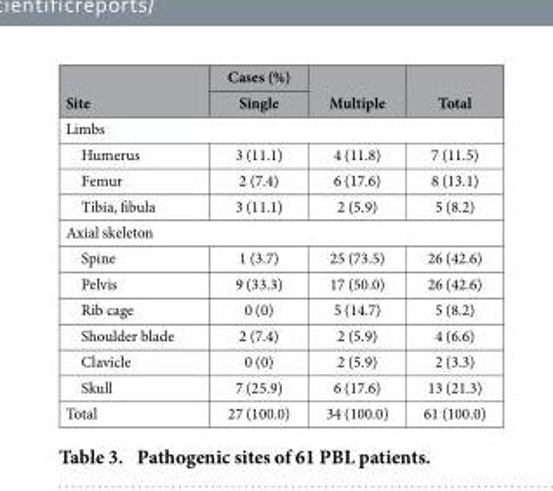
<table><thead><tr><td rowspan="2">Site</td><td rowspan="2">Cases (%) Single</td><td rowspan="2">Multiple</td><td rowspan="2">Total</td></tr><tr></tr></thead><tbody><tr><td colspan="4">Limbs</td></tr><tr><td>Humerus</td><td>3 (11.1)</td><td>4 (11.8)</td><td>7 (11.5)</td></tr><tr><td>Femur</td><td>2 (7.4)</td><td>6 (17.6)</td><td>8 (13.1)</td></tr><tr><td>Tibia, fibula</td><td>3 (11.1)</td><td>2 (5.9)</td><td>5 (8.2)</td></tr><tr><td colspan="4">Axial skeleton</td></tr><tr><td>Spine</td><td>1 (3.7)</td><td>25 (73.5)</td><td>26 (42.6)</td></tr><tr><td>Pelvis</td><td>9 (33.3)</td><td>17 (50.0)</td><td>26 (42.6)</td></tr><tr><td>Rib cage</td><td>0 (0)</td><td>5 (14.7)</td><td>5 (8.2)</td></tr><tr><td>Shoulder blade</td><td>2 (7.4)</td><td>2 (5.9)</td><td>4 (6.6)</td></tr><tr><td>Clavicle</td><td>0 (0)</td><td>2 (5.9)</td><td>2 (3.3)</td></tr><tr><td>Skull</td><td>7 (25.9)</td><td>6 (17.6)</td><td>13 (21.3)</td></tr><tr><td>Total</td><td>27 (100.0)</td><td>34 (100.0)</td><td>61 (100.0)</td></tr></tbody></table>